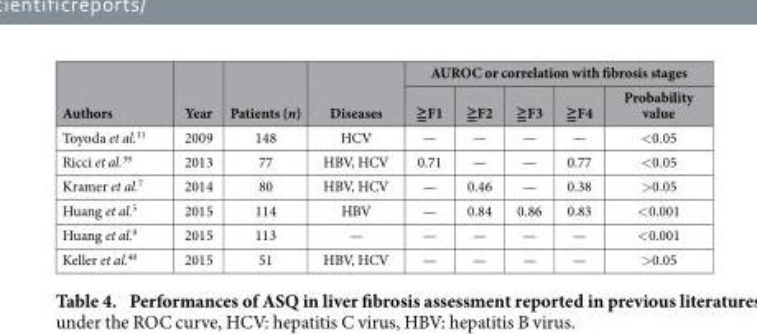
<table><thead><tr><td rowspan="2">Authors</td><td rowspan="2">Year</td><td rowspan="2">Patients (n)</td><td rowspan="2">Diseases</td><td colspan="5">AUROC or correlation with fibrosis stages</td></tr><tr><td>≧F1</td><td>≧F2</td><td>≧F3</td><td>≧F4</td><td>Probability value</td></tr></thead><tbody><tr><td>Toyoda et al.<sup>11</sup></td><td>2009</td><td>148</td><td>HCV</td><td>—</td><td>—</td><td>—</td><td>—</td><td>&lt; 0.05</td></tr><tr><td>Ricci et al.<sup>39</sup></td><td>2013</td><td>77</td><td>HBV, HCV</td><td>0.71</td><td>—</td><td>—</td><td>0.77</td><td>&lt; 0.05</td></tr><tr><td>Kramer et al.<sup>7</sup></td><td>2014</td><td>80</td><td>HBV, HCV</td><td>—</td><td>0.46</td><td>—</td><td>0.38</td><td>&gt; 0.05</td></tr><tr><td>Huang et al.<sup>5</sup></td><td>2015</td><td>114</td><td>HBV</td><td>—</td><td>0.84</td><td>0.86</td><td>0.83</td><td>&lt; 0.001</td></tr><tr><td>Huang et al.<sup>9</sup></td><td>2015</td><td>113</td><td>—</td><td>—</td><td>—</td><td>—</td><td>—</td><td>&lt; 0.001</td></tr><tr><td>Keller et al.<sup>40</sup></td><td>2015</td><td>51</td><td>HBV, HCV</td><td>—</td><td>—</td><td>—</td><td>—</td><td>&gt; 0.05</td></tr></tbody></table>